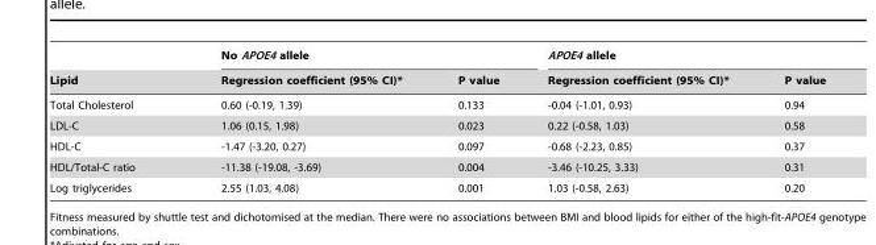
<table><thead><tr><td rowspan="2">Lipid</td><td colspan="2">No APOE4 allele</td><td colspan="2">APOE4 allele</td></tr><tr><td>Regression coefficient (95% CI)*</td><td>P value</td><td>Regression coefficient (95% CI)*</td><td>P value</td></tr></thead><tbody><tr><td>Total Cholesterol</td><td>0.60 (-0.19, 1.39)</td><td>0.133</td><td>-0.04 (-1.01, 0.93)</td><td>0.94</td></tr><tr><td>LDL-C</td><td>1.06 (0.15, 1.98)</td><td>0.023</td><td>0.22 (-0.58, 1.03)</td><td>0.58</td></tr><tr><td>HDL-C</td><td>-1.47 (-3.20, 0.27)</td><td>0.097</td><td>-0.68 (-2.23, 0.85)</td><td>0.37</td></tr><tr><td>HDL/Total-C ratio</td><td>-11.38 (-19.08, -3.69)</td><td>0.004</td><td>-3.46 (-10.25, 3.33)</td><td>0.31</td></tr><tr><td>Log triglycerides</td><td>2.55 (1.03, 4.08)</td><td>0.001</td><td>1.03 (-0.58, 2.63)</td><td>0.20</td></tr></tbody></table>